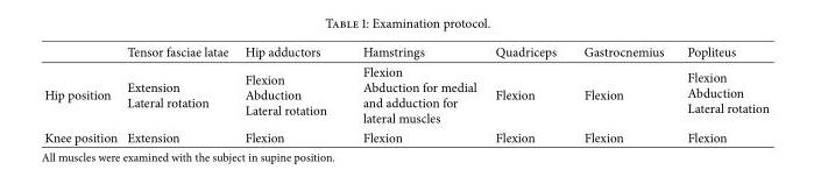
<table><thead><tr><td></td><td>Tensor fasciae latae</td><td>Hip adductors</td><td>Hamstrings</td><td>Quadriceps</td><td>Gastrocnemius</td><td>Popliteus</td></tr></thead><tbody><tr><td>Hip position</td><td>Extension Lateral rotation</td><td>Flexion Abduction Lateral rotation</td><td>Flexion Abduction for medial and adduction for lateral muscles</td><td>Flexion</td><td>Flexion</td><td>Flexion Abduction Lateral rotation</td></tr><tr><td>Knee position</td><td>Extension</td><td>Flexion</td><td>Flexion</td><td>Flexion</td><td>Flexion</td><td>Flexion</td></tr></tbody></table>